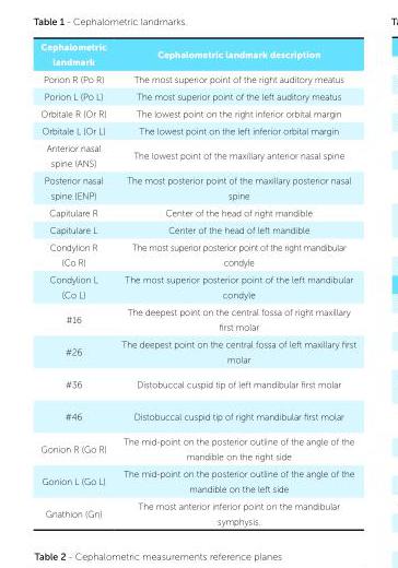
<table><thead><tr><td>Cephalometric landmark</td><td>Cephalometric landmark description</td></tr></thead><tbody><tr><td>Porion R (Po R)</td><td>The most superior point of the right auditory meatus</td></tr><tr><td>Porion L (Po L)</td><td>The most superior point of the left auditory meatus</td></tr><tr><td>Orbitale R (Or R)</td><td>The lowest point on the right inferior orbital margin</td></tr><tr><td>Orbitale L (Or L)</td><td>The lowest point on the left inferior orbital margin</td></tr><tr><td>Anterior nasal spine (ANS)</td><td>The lowest point of the maxillary anterior nasal spine</td></tr><tr><td>Posterior nasal spine (ENP)</td><td>The most posterior point of the maxillary posterior nasal spine</td></tr><tr><td>Capitulare R</td><td>Center of the head of right mandible</td></tr><tr><td>Capitulare L</td><td>Center of the head of left mandible</td></tr><tr><td>Condylion R (Co R)</td><td>The most superior posterior point of the right mandibular condyle</td></tr><tr><td>Condylion L (Co L)</td><td>The most superior posterior point of the left mandibular condyle</td></tr><tr><td>#16</td><td>The deepest point on the central fossa of right maxillary first molar</td></tr><tr><td>#26</td><td>The deepest point on the central fossa of left maxillary first molar</td></tr><tr><td>#36</td><td>Distobuccal cuspid tip of left mandibular first molar</td></tr><tr><td>#46</td><td>Distobuccal cuspid tip of right mandibular first molar</td></tr><tr><td>Gonion R (Go R)</td><td>The mid-point on the posterior outline of the angle of the mandible on the right side</td></tr><tr><td>Gonion L (Go L)</td><td>The mid-point on the posterior outline of the angle of the mandible on the left side</td></tr><tr><td>Gnathion (Gn)</td><td>The most anterior inferior point on the mandibular symphysis.</td></tr></tbody></table>